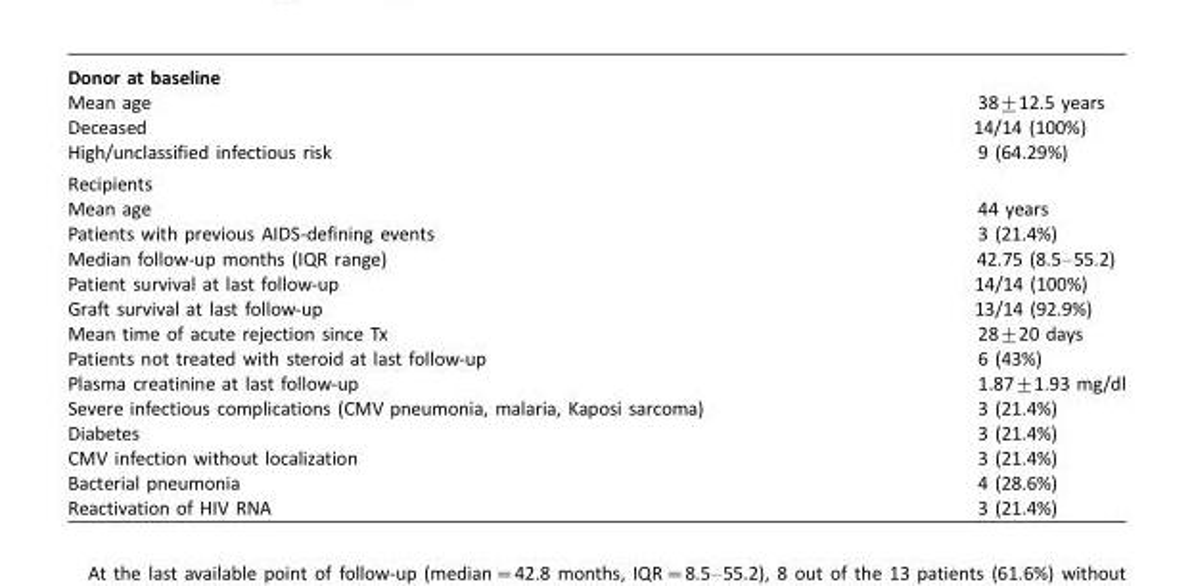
<table><tbody><tr><td colspan="2">Donor at baseline</td></tr><tr><td>Mean age</td><td>38±12.5 years</td></tr><tr><td>Deceased</td><td>14/14 (100%)</td></tr><tr><td>High/unclassified infectious risk</td><td>9 (64.29%)</td></tr><tr><td colspan="2">Recipients</td></tr><tr><td>Mean age</td><td>44 years</td></tr><tr><td>Patients with previous AIDS-defining events</td><td>3 (21.4%)</td></tr><tr><td>Median follow-up months (IQR range)</td><td>42.75 (8.5–55.2)</td></tr><tr><td>Patient survival at last follow-up</td><td>14/14 (100%)</td></tr><tr><td>Graft survival at last follow-up</td><td>13/14 (92.9%)</td></tr><tr><td>Mean time of acute rejection since Tx</td><td>28±20 days</td></tr><tr><td>Patients not treated with steroid at last follow-up</td><td>6 (43%)</td></tr><tr><td>Plasma creatinine at last follow-up</td><td>1.87±1.93 mg/dl</td></tr><tr><td>Severe infectious complications (CMV pneumonia, malaria, Kaposi sarcoma)</td><td>3 (21.4%)</td></tr><tr><td>Diabetes</td><td>3 (21.4%)</td></tr><tr><td>CMV infection without localization</td><td>3 (21.4%)</td></tr><tr><td>Bacterial pneumonia</td><td>4 (28.6%)</td></tr><tr><td>Reactivation of HIV RNA</td><td>3 (21.4%)</td></tr></tbody></table>